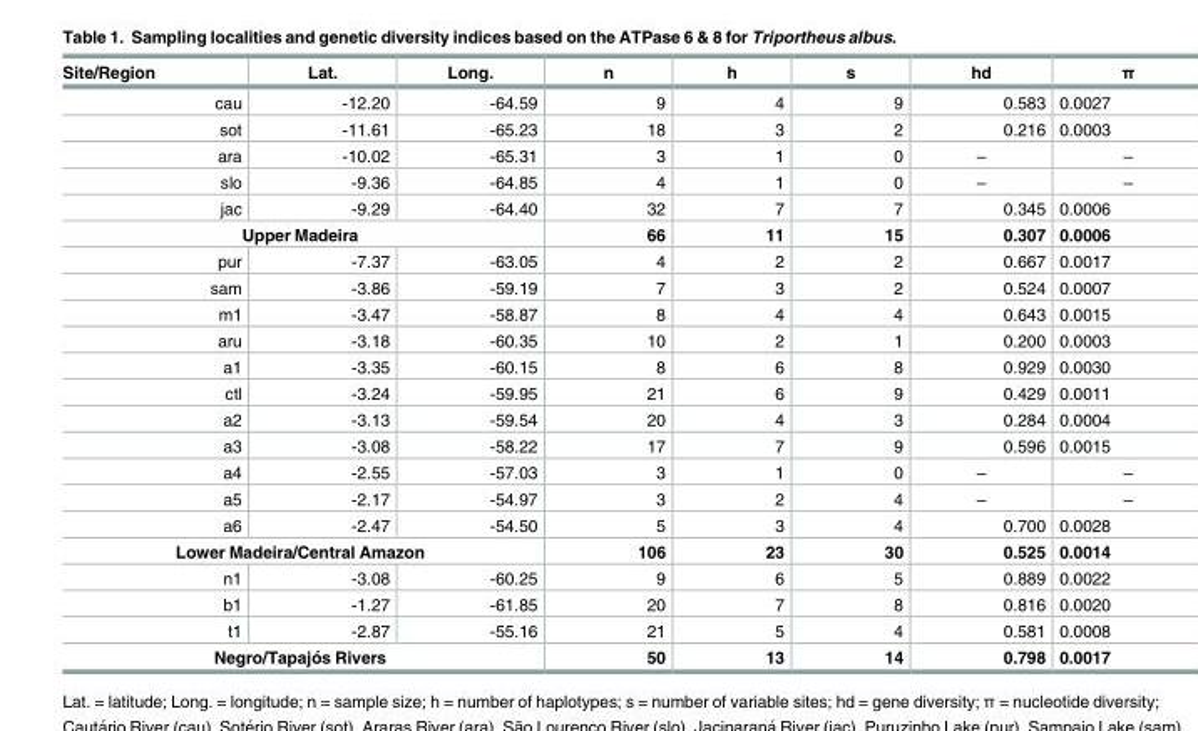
<table><thead><tr><td>Site/Region</td><td>Lat.</td><td>Long.</td><td>n</td><td>h</td><td>s</td><td>hd</td><td>π</td></tr></thead><tbody><tr><td>cau</td><td>-12.20</td><td>-64.59</td><td>9</td><td>4</td><td>9</td><td>0.583</td><td>0.0027</td></tr><tr><td>sot</td><td>-11.61</td><td>-65.23</td><td>18</td><td>3</td><td>2</td><td>0.216</td><td>0.0003</td></tr><tr><td>ara</td><td>-10.02</td><td>-65.31</td><td>3</td><td>1</td><td>0</td><td>–</td><td>–</td></tr><tr><td>slo</td><td>-9.36</td><td>-64.85</td><td>4</td><td>1</td><td>0</td><td>–</td><td>–</td></tr><tr><td>jac</td><td>-9.29</td><td>-64.40</td><td>32</td><td>7</td><td>7</td><td>0.345</td><td>0.0006</td></tr><tr><td colspan="3">Upper Madeira</td><td>66</td><td>11</td><td>15</td><td>0.307</td><td>0.0006</td></tr><tr><td>pur</td><td>-7.37</td><td>-63.05</td><td>4</td><td>2</td><td>2</td><td>0.667</td><td>0.0017</td></tr><tr><td>sam</td><td>-3.86</td><td>-59.19</td><td>7</td><td>3</td><td>2</td><td>0.524</td><td>0.0007</td></tr><tr><td>m1</td><td>-3.47</td><td>-58.87</td><td>8</td><td>4</td><td>4</td><td>0.643</td><td>0.0015</td></tr><tr><td>aru</td><td>-3.18</td><td>-60.35</td><td>10</td><td>2</td><td>1</td><td>0.200</td><td>0.0003</td></tr><tr><td>a1</td><td>-3.35</td><td>-60.15</td><td>8</td><td>6</td><td>8</td><td>0.929</td><td>0.0030</td></tr><tr><td>ctl</td><td>-3.24</td><td>-59.95</td><td>21</td><td>6</td><td>9</td><td>0.429</td><td>0.0011</td></tr><tr><td>a2</td><td>-3.13</td><td>-59.54</td><td>20</td><td>4</td><td>3</td><td>0.284</td><td>0.0004</td></tr><tr><td>a3</td><td>-3.08</td><td>-58.22</td><td>17</td><td>7</td><td>9</td><td>0.596</td><td>0.0015</td></tr><tr><td>a4</td><td>-2.55</td><td>-57.03</td><td>3</td><td>1</td><td>0</td><td>–</td><td>–</td></tr><tr><td>a5</td><td>-2.17</td><td>-54.97</td><td>3</td><td>2</td><td>4</td><td>–</td><td>–</td></tr><tr><td>a6</td><td>-2.47</td><td>-54.50</td><td>5</td><td>3</td><td>4</td><td>0.700</td><td>0.0028</td></tr><tr><td colspan="3">Lower Madeira/Central Amazon</td><td>106</td><td>23</td><td>30</td><td>0.525</td><td>0.0014</td></tr><tr><td>n1</td><td>-3.08</td><td>-60.25</td><td>9</td><td>6</td><td>5</td><td>0.889</td><td>0.0022</td></tr><tr><td>b1</td><td>-1.27</td><td>-61.85</td><td>20</td><td>7</td><td>8</td><td>0.816</td><td>0.0020</td></tr><tr><td>t1</td><td>-2.87</td><td>-55.16</td><td>21</td><td>5</td><td>4</td><td>0.581</td><td>0.0008</td></tr><tr><td colspan="3">Negro/Tapajo´s Rivers</td><td>50</td><td>13</td><td>14</td><td>0.798</td><td>0.0017</td></tr></tbody></table>